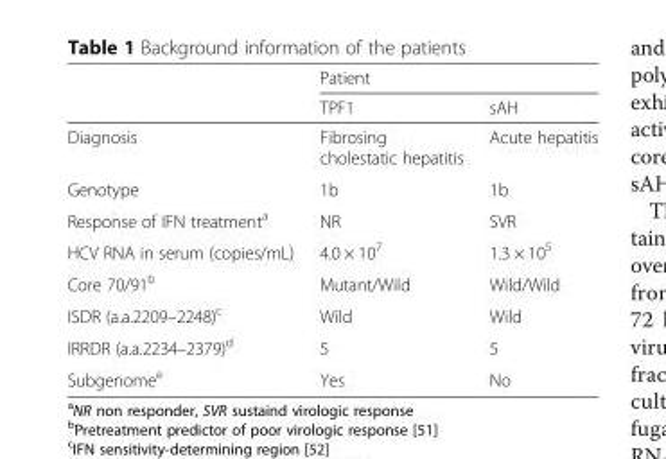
<table><thead><tr><td rowspan="2"></td><td colspan="2">Patient</td></tr><tr><td>TPF1</td><td>sAH</td></tr></thead><tbody><tr><td>Diagnosis</td><td>Fibrosing cholestatic hepatitis</td><td>Acute hepatitis</td></tr><tr><td>Genotype</td><td>1b</td><td>1b</td></tr><tr><td>Response of IFN treatment<sup>a</sup></td><td>NR</td><td>SVR</td></tr><tr><td>HCV RNA in serum (copies/mL)</td><td>4.0 × 10<sup>7</sup></td><td>1.3 × 10<sup>5</sup></td></tr><tr><td>Core 70/91<sup>b</sup></td><td>Mutant/Wild</td><td>Wild/Wild</td></tr><tr><td>ISDR (a.a.2209–2248)<sup>c</sup></td><td>Wild</td><td>Wild</td></tr><tr><td>IRRDR (a.a.2234–2379)<sup>d</sup></td><td>5</td><td>5</td></tr><tr><td>Subgenome<sup>e</sup></td><td>Yes</td><td>No</td></tr></tbody></table>